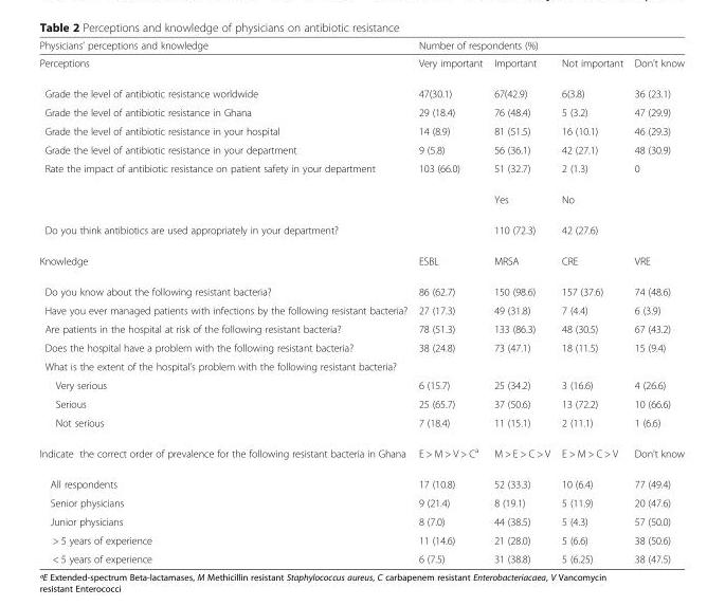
<table><thead><tr><td rowspan="2">Physicians’ perceptions and knowledge Perceptions</td><td colspan="4">Number of respondents (%)</td></tr><tr><td>Very important</td><td>Important</td><td>Not important</td><td>Don’t know</td></tr></thead><tbody><tr><td>Grade the level of antibiotic resistance worldwide</td><td>47(30.1)</td><td>67(42.9)</td><td>6(3.8)</td><td>36 (23.1)</td></tr><tr><td>Grade the level of antibiotic resistance in Ghana</td><td>29 (18.4)</td><td>76 (48.4)</td><td>5 (3.2)</td><td>47 (29.9)</td></tr><tr><td>Grade the level of antibiotic resistance in your hospital</td><td>14 (8.9)</td><td>81 (51.5)</td><td>16 (10.1)</td><td>46 (29.3)</td></tr><tr><td>Grade the level of antibiotic resistance in your department</td><td>9 (5.8)</td><td>56 (36.1)</td><td>42 (27.1)</td><td>48 (30.9)</td></tr><tr><td rowspan="2">Rate the impact of antibiotic resistance on patient safety in your department</td><td>103 (66.0)</td><td>51 (32.7)</td><td>2 (1.3)</td><td>0</td></tr><tr><td></td><td>Yes</td><td>No</td><td></td></tr><tr><td>Do you think antibiotics are used appropriately in your department?</td><td></td><td>110 (72.3)</td><td>42 (27.6)</td><td></td></tr><tr><td>Knowledge</td><td>ESBL</td><td>MRSA</td><td>CRE</td><td>VRE</td></tr><tr><td>Do you know about the following resistant bacteria?</td><td>86 (62.7)</td><td>150 (98.6)</td><td>157 (37.6)</td><td>74 (48.6)</td></tr><tr><td>Have you ever managed patients with infections by the following resistant bacteria?</td><td>27 (17.3)</td><td>49 (31.8)</td><td>7 (4.4)</td><td>6 (3.9)</td></tr><tr><td>Are patients in the hospital at risk of the following resistant bacteria?</td><td>78 (51.3)</td><td>133 (86.3)</td><td>48 (30.5)</td><td>67 (43.2)</td></tr><tr><td>Does the hospital have a problem with the following resistant bacteria?</td><td>38 (24.8)</td><td>73 (47.1)</td><td>18 (11.5)</td><td>15 (9.4)</td></tr><tr><td colspan="5">What is the extent of the hospital’s problem with the following resistant bacteria?</td></tr><tr><td>Very serious</td><td>6 (15.7)</td><td>25 (34.2)</td><td>3 (16.6)</td><td>4 (26.6)</td></tr><tr><td>Serious</td><td>25 (65.7)</td><td>37 (50.6)</td><td>13 (72.2)</td><td>10 (66.6)</td></tr><tr><td>Not serious</td><td>7 (18.4)</td><td>11 (15.1)</td><td>2 (11.1)</td><td>1 (6.6)</td></tr><tr><td>Indicate the correct order of prevalence for the following resistant bacteria in Ghana</td><td>E &gt; M &gt; V &gt; C<sup>a</sup></td><td>M &gt; E &gt; C &gt; V</td><td>E &gt; M &gt; C &gt; V</td><td>Don’t know</td></tr><tr><td>All respondents</td><td>17 (10.8)</td><td>52 (33.3)</td><td>10 (6.4)</td><td>77 (49.4)</td></tr><tr><td>Senior physicians</td><td>9 (21.4)</td><td>8 (19.1)</td><td>5 (11.9)</td><td>20 (47.6)</td></tr><tr><td>Junior physicians</td><td>8 (7.0)</td><td>44 (38.5)</td><td>5 (4.3)</td><td>57 (50.0)</td></tr><tr><td>&gt; 5 years of experience</td><td>11 (14.6)</td><td>21 (28.0)</td><td>5 (6.6)</td><td>38 (50.6)</td></tr><tr><td>&lt; 5 years of experience</td><td>6 (7.5)</td><td>31 (38.8)</td><td>5 (6.25)</td><td>38 (47.5)</td></tr></tbody></table>